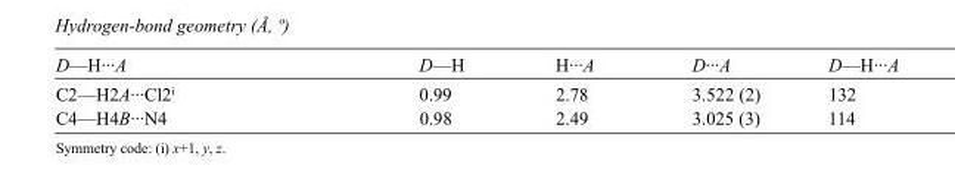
<table><tbody><tr><td>D—H···A</td><td>D—H</td><td>H···A</td><td>D···A</td><td>D—H···A</td></tr><tr><td>C2—H2A···Cl2<sup>i</sup></td><td>0.99</td><td>2.78</td><td>3.522 (2)</td><td>132</td></tr><tr><td>C4—H4B···N4</td><td>0.98</td><td>2.49</td><td>3.025 (3)</td><td>114</td></tr></tbody></table>